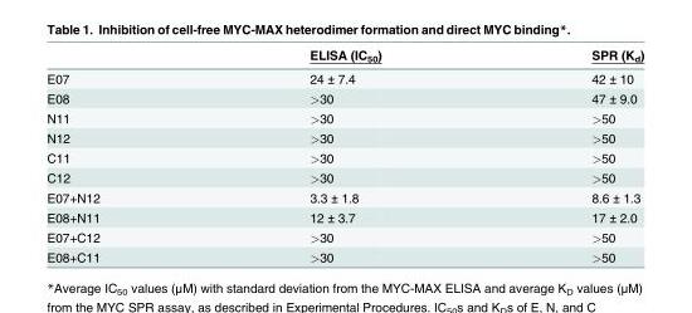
<table><thead><tr><td></td><td>ELISA (IC<sub>50</sub>)</td><td>SPR (K<sub>d</sub>)</td></tr></thead><tbody><tr><td>E07</td><td>24 ± 7.4</td><td>42 ± 10</td></tr><tr><td>E08</td><td>&gt;30</td><td>47 ± 9.0</td></tr><tr><td>N11</td><td>&gt;30</td><td>&gt;50</td></tr><tr><td>N12</td><td>&gt;30</td><td>&gt;50</td></tr><tr><td>C11</td><td>&gt;30</td><td>&gt;50</td></tr><tr><td>C12</td><td>&gt;30</td><td>&gt;50</td></tr><tr><td>E07+N12</td><td>3.3 ± 1.8</td><td>8.6 ± 1.3</td></tr><tr><td>E08+N11</td><td>12 ± 3.7</td><td>17 ± 2.0</td></tr><tr><td>E07+C12</td><td>&gt;30</td><td>&gt;50</td></tr><tr><td>E08+C11</td><td>&gt;30</td><td>&gt;50</td></tr></tbody></table>